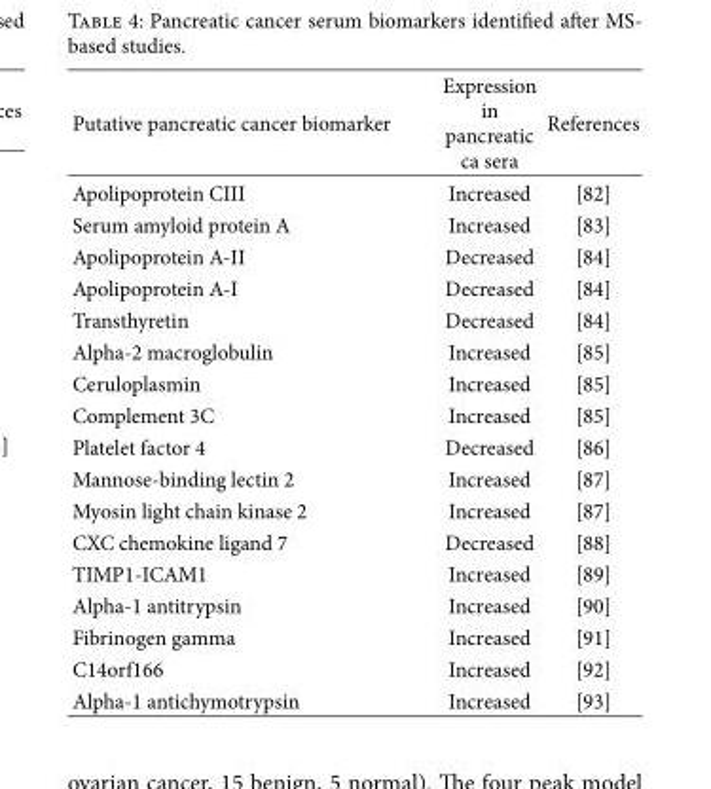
<table><thead><tr><td>Putative pancreatic cancer biomarker</td><td>Expression in pancreatic ca sera</td><td>References</td></tr></thead><tbody><tr><td>Apolipoprotein CIII</td><td>Increased</td><td>[82]</td></tr><tr><td>Serum amyloid protein A</td><td>Increased</td><td>[83]</td></tr><tr><td>Apolipoprotein A-II</td><td>Decreased</td><td>[84]</td></tr><tr><td>Apolipoprotein A-I</td><td>Decreased</td><td>[84]</td></tr><tr><td>Transthyretin</td><td>Decreased</td><td>[84]</td></tr><tr><td>Alpha-2 macroglobulin</td><td>Increased</td><td>[85]</td></tr><tr><td>Ceruloplasmin</td><td>Increased</td><td>[85]</td></tr><tr><td>Complement 3C</td><td>Increased</td><td>[85]</td></tr><tr><td>Platelet factor 4</td><td>Decreased</td><td>[86]</td></tr><tr><td>Mannose-binding lectin 2</td><td>Increased</td><td>[87]</td></tr><tr><td>Myosin light chain kinase 2</td><td>Increased</td><td>[87]</td></tr><tr><td>CXC chemokine ligand 7</td><td>Decreased</td><td>[88]</td></tr><tr><td>TIMP1-ICAM1</td><td>Increased</td><td>[89]</td></tr><tr><td>Alpha-1 antitrypsin</td><td>Increased</td><td>[90]</td></tr><tr><td>Fibrinogen gamma</td><td>Increased</td><td>[91]</td></tr><tr><td>C14orf166</td><td>Increased</td><td>[92]</td></tr><tr><td>Alpha-1 antichymotrypsin</td><td>Increased</td><td>[93]</td></tr></tbody></table>